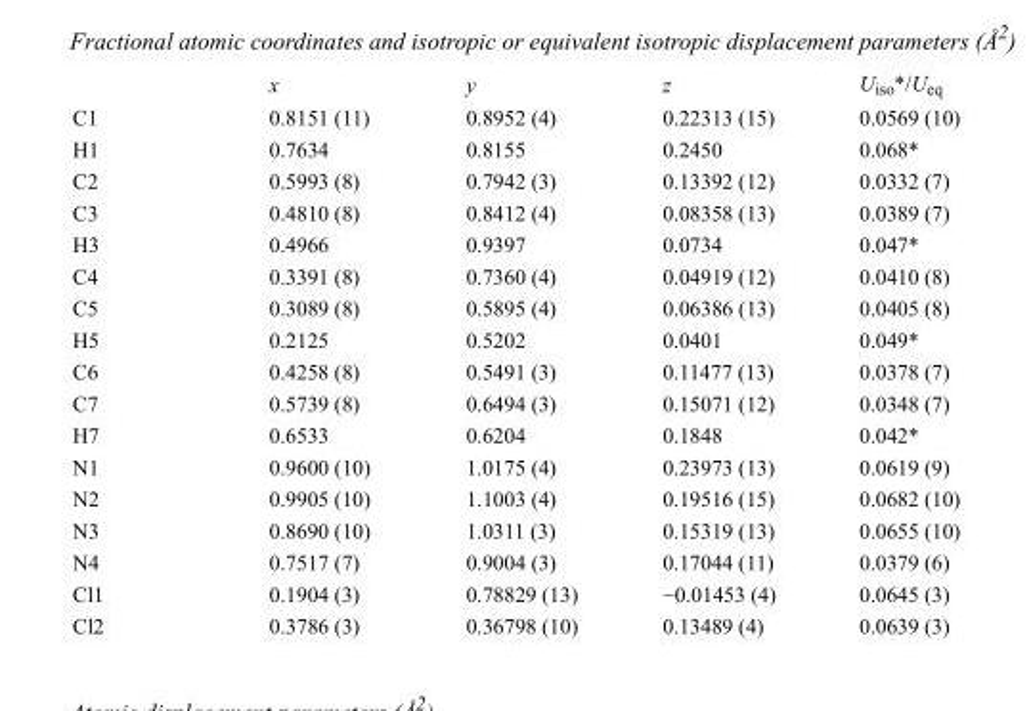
<table><thead><tr><td></td><td>x</td><td>y</td><td>z</td><td>U<sub>iso</sub>*/U<sub>eq</sub></td></tr></thead><tbody><tr><td>C1</td><td>0.8151 (11)</td><td>0.8952 (4)</td><td>0.22313 (15)</td><td>0.0569 (10)</td></tr><tr><td>H1</td><td>0.7634</td><td>0.8155</td><td>0.2450</td><td>0.068*</td></tr><tr><td>C2</td><td>0.5993 (8)</td><td>0.7942 (3)</td><td>0.13392 (12)</td><td>0.0332 (7)</td></tr><tr><td>C3</td><td>0.4810 (8)</td><td>0.8412 (4)</td><td>0.08358 (13)</td><td>0.0389 (7)</td></tr><tr><td>H3</td><td>0.4966</td><td>0.9397</td><td>0.0734</td><td>0.047*</td></tr><tr><td>C4</td><td>0.3391 (8)</td><td>0.7360 (4)</td><td>0.04919 (12)</td><td>0.0410 (8)</td></tr><tr><td>C5</td><td>0.3089 (8)</td><td>0.5895 (4)</td><td>0.06386 (13)</td><td>0.0405 (8)</td></tr><tr><td>H5</td><td>0.2125</td><td>0.5202</td><td>0.0401</td><td>0.049*</td></tr><tr><td>C6</td><td>0.4258 (8)</td><td>0.5491 (3)</td><td>0.11477 (13)</td><td>0.0378 (7)</td></tr><tr><td>C7</td><td>0.5739 (8)</td><td>0.6494 (3)</td><td>0.15071 (12)</td><td>0.0348 (7)</td></tr><tr><td>H7</td><td>0.6533</td><td>0.6204</td><td>0.1848</td><td>0.042*</td></tr><tr><td>N1</td><td>0.9600 (10)</td><td>1.0175 (4)</td><td>0.23973 (13)</td><td>0.0619 (9)</td></tr><tr><td>N2</td><td>0.9905 (10)</td><td>1.1003 (4)</td><td>0.19516 (15)</td><td>0.0682 (10)</td></tr><tr><td>N3</td><td>0.8690 (10)</td><td>1.0311 (3)</td><td>0.15319 (13)</td><td>0.0655 (10)</td></tr><tr><td>N4</td><td>0.7517 (7)</td><td>0.9004 (3)</td><td>0.17044 (11)</td><td>0.0379 (6)</td></tr><tr><td>Cl1</td><td>0.1904 (3)</td><td>0.78829 (13)</td><td>−0.01453 (4)</td><td>0.0645 (3)</td></tr><tr><td>Cl2</td><td>0.3786 (3)</td><td>0.36798 (10)</td><td>0.13489 (4)</td><td>0.0639 (3)</td></tr></tbody></table>